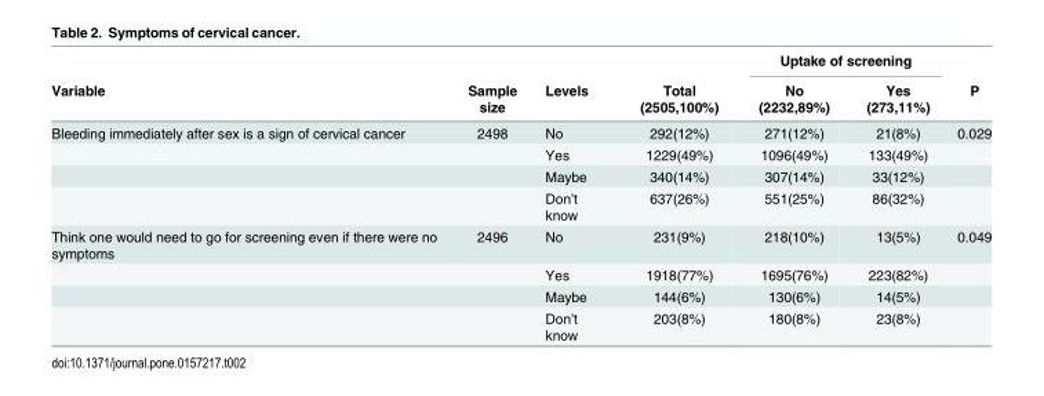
<table><thead><tr><td rowspan="2">Variable</td><td rowspan="2">Sample size</td><td rowspan="2">Levels</td><td rowspan="2">Total (2505,100%)</td><td colspan="2">Uptake of screening</td><td rowspan="2">P</td></tr><tr><td>No (2232,89%)</td><td>Yes (273,11%)</td></tr></thead><tbody><tr><td rowspan="4">Bleeding immediately after sex is a sign of cervical cancer</td><td>2498</td><td>No</td><td>292(12%)</td><td>271(12%)</td><td>21(8%)</td><td>0.029</td></tr><tr><td></td><td>Yes</td><td>1229(49%)</td><td>1096(49%)</td><td>133(49%)</td><td></td></tr><tr><td></td><td>Maybe</td><td>340(14%)</td><td>307(14%)</td><td>33(12%)</td><td></td></tr><tr><td></td><td>Don’t know</td><td>637(26%)</td><td>551(25%)</td><td>86(32%)</td><td></td></tr><tr><td rowspan="4">Think one would need to go for screening even if there were no symptoms</td><td>2496</td><td>No</td><td>231(9%)</td><td>218(10%)</td><td>13(5%)</td><td>0.049</td></tr><tr><td></td><td>Yes</td><td>1918(77%)</td><td>1695(76%)</td><td>223(82%)</td><td></td></tr><tr><td></td><td>Maybe</td><td>144(6%)</td><td>130(6%)</td><td>14(5%)</td><td></td></tr><tr><td></td><td>Don’t know</td><td>203(8%)</td><td>180(8%)</td><td>23(8%)</td><td></td></tr></tbody></table>